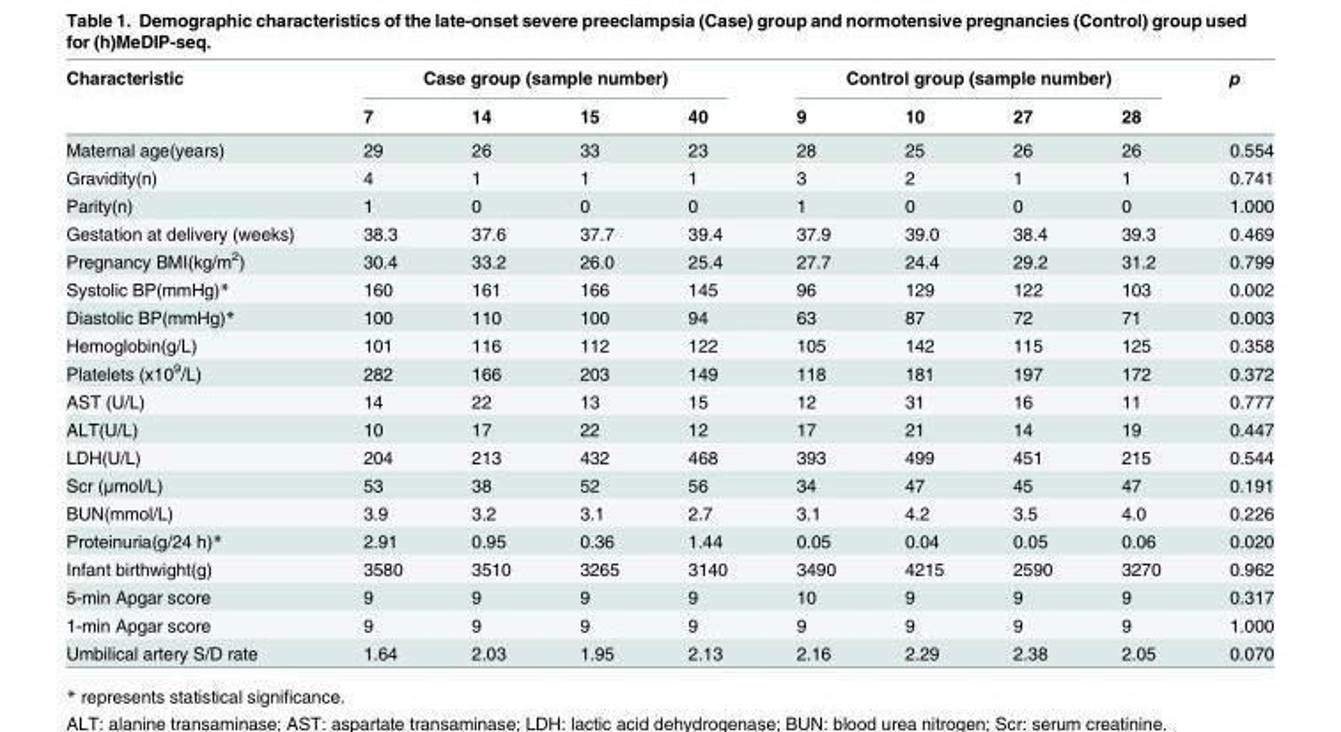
<table><thead><tr><td rowspan="2">Characteristic</td><td colspan="4">Case group (sample number)</td><td colspan="4">Control group (sample number)</td><td rowspan="2">p</td></tr><tr><td>7</td><td>14</td><td>15</td><td>40</td><td>9</td><td>10</td><td>27</td><td>28</td></tr></thead><tbody><tr><td>Maternal age(years)</td><td>29</td><td>26</td><td>33</td><td>23</td><td>28</td><td>25</td><td>26</td><td>26</td><td>0.554</td></tr><tr><td>Gravidity(n)</td><td>4</td><td>1</td><td>1</td><td>1</td><td>3</td><td>2</td><td>1</td><td>1</td><td>0.741</td></tr><tr><td>Parity(n)</td><td>1</td><td>0</td><td>0</td><td>0</td><td>1</td><td>0</td><td>0</td><td>0</td><td>1.000</td></tr><tr><td>Gestation at delivery (weeks)</td><td>38.3</td><td>37.6</td><td>37.7</td><td>39.4</td><td>37.9</td><td>39.0</td><td>38.4</td><td>39.3</td><td>0.469</td></tr><tr><td>Pregnancy BMI(kg/m<sup>2</sup>)</td><td>30.4</td><td>33.2</td><td>26.0</td><td>25.4</td><td>27.7</td><td>24.4</td><td>29.2</td><td>31.2</td><td>0.799</td></tr><tr><td>Systolic BP(mmHg)*</td><td>160</td><td>161</td><td>166</td><td>145</td><td>96</td><td>129</td><td>122</td><td>103</td><td>0.002</td></tr><tr><td>Diastolic BP(mmHg)*</td><td>100</td><td>110</td><td>100</td><td>94</td><td>63</td><td>87</td><td>72</td><td>71</td><td>0.003</td></tr><tr><td>Hemoglobin(g/L)</td><td>101</td><td>116</td><td>112</td><td>122</td><td>105</td><td>142</td><td>115</td><td>125</td><td>0.358</td></tr><tr><td>Platelets (x10<sup>9</sup>/L)</td><td>282</td><td>166</td><td>203</td><td>149</td><td>118</td><td>181</td><td>197</td><td>172</td><td>0.372</td></tr><tr><td>AST (U/L)</td><td>14</td><td>22</td><td>13</td><td>15</td><td>12</td><td>31</td><td>16</td><td>11</td><td>0.777</td></tr><tr><td>ALT(U/L)</td><td>10</td><td>17</td><td>22</td><td>12</td><td>17</td><td>21</td><td>14</td><td>19</td><td>0.447</td></tr><tr><td>LDH(U/L)</td><td>204</td><td>213</td><td>432</td><td>468</td><td>393</td><td>499</td><td>451</td><td>215</td><td>0.544</td></tr><tr><td>Scr (μmol/L)</td><td>53</td><td>38</td><td>52</td><td>56</td><td>34</td><td>47</td><td>45</td><td>47</td><td>0.191</td></tr><tr><td>BUN(mmol/L)</td><td>3.9</td><td>3.2</td><td>3.1</td><td>2.7</td><td>3.1</td><td>4.2</td><td>3.5</td><td>4.0</td><td>0.226</td></tr><tr><td>Proteinuria(g/24 h)*</td><td>2.91</td><td>0.95</td><td>0.36</td><td>1.44</td><td>0.05</td><td>0.04</td><td>0.05</td><td>0.06</td><td>0.020</td></tr><tr><td>Infant birthwight(g)</td><td>3580</td><td>3510</td><td>3265</td><td>3140</td><td>3490</td><td>4215</td><td>2590</td><td>3270</td><td>0.962</td></tr><tr><td>5-min Apgar score</td><td>9</td><td>9</td><td>9</td><td>9</td><td>10</td><td>9</td><td>9</td><td>9</td><td>0.317</td></tr><tr><td>1-min Apgar score</td><td>9</td><td>9</td><td>9</td><td>9</td><td>9</td><td>9</td><td>9</td><td>9</td><td>1.000</td></tr><tr><td>Umbilical artery S/D rate</td><td>1.64</td><td>2.03</td><td>1.95</td><td>2.13</td><td>2.16</td><td>2.29</td><td>2.38</td><td>2.05</td><td>0.070</td></tr></tbody></table>